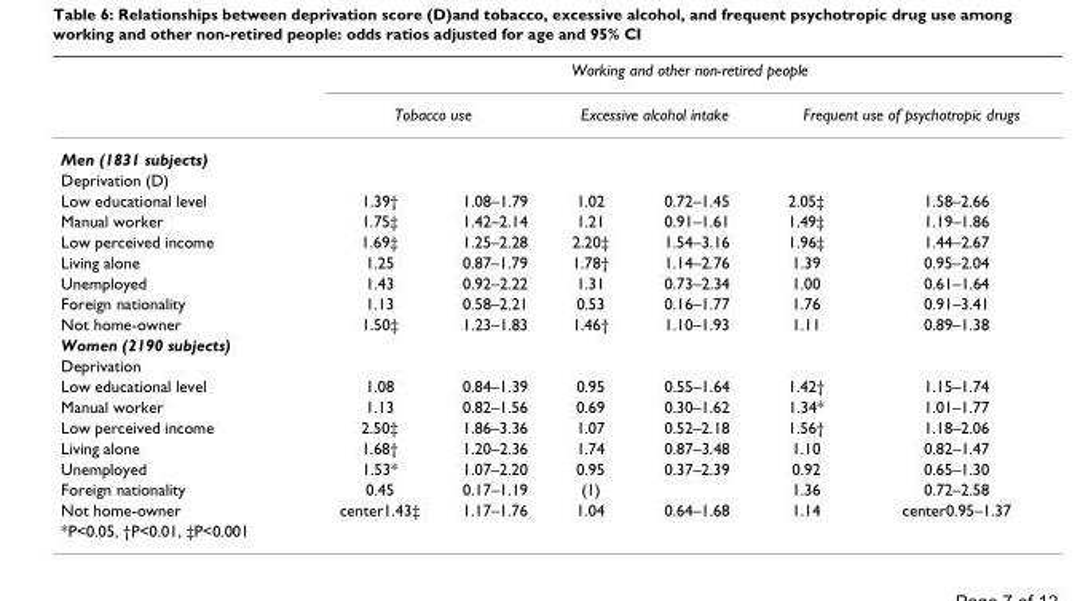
<table><thead><tr><td rowspan="3">Men (1831 subjects)</td><td colspan="6">Working and other non-retired people</td></tr><tr><td colspan="2">Tobacco use</td><td colspan="2">Excessive alcohol intake</td><td colspan="2">Frequent use of psychotropic drugs</td></tr><tr><td></td><td></td><td></td><td></td><td></td><td></td></tr></thead><tbody><tr><td colspan="7">Deprivation (D)</td></tr><tr><td>Low educational level</td><td>1.39†</td><td>1.08–1.79</td><td>1.02</td><td>0.72–1.45</td><td>2.05‡</td><td>1.58–2.66</td></tr><tr><td>Manual worker</td><td>1.75‡</td><td>1.42–2.14</td><td>1.21</td><td>0.91–1.61</td><td>1.49‡</td><td>1.19–1.86</td></tr><tr><td>Low perceived income</td><td>1.69‡</td><td>1.25–2.28</td><td>2.20‡</td><td>1.54–3.16</td><td>1.96‡</td><td>1.44–2.67</td></tr><tr><td>Living alone</td><td>1.25</td><td>0.87–1.79</td><td>1.78†</td><td>1.14–2.76</td><td>1.39</td><td>0.95–2.04</td></tr><tr><td>Unemployed</td><td>1.43</td><td>0.92–2.22</td><td>1.31</td><td>0.73–2.34</td><td>1.00</td><td>0.61–1.64</td></tr><tr><td>Foreign nationality</td><td>1.13</td><td>0.58–2.21</td><td>0.53</td><td>0.16–1.77</td><td>1.76</td><td>0.91–3.41</td></tr><tr><td>Not home-owner</td><td>1.50‡</td><td>1.23–1.83</td><td>1.46†</td><td>1.10–1.93</td><td>1.11</td><td>0.89–1.38</td></tr><tr><td colspan="7">Women (2190 subjects)</td></tr><tr><td colspan="7">Deprivation</td></tr><tr><td>Low educational level</td><td>1.08</td><td>0.84–1.39</td><td>0.95</td><td>0.55–1.64</td><td>1.42†</td><td>1.15–1.74</td></tr><tr><td>Manual worker</td><td>1.13</td><td>0.82–1.56</td><td>0.69</td><td>0.30–1.62</td><td>1.34*</td><td>1.01–1.77</td></tr><tr><td>Low perceived income</td><td>2.50‡</td><td>1.86–3.36</td><td>1.07</td><td>0.52–2.18</td><td>1.56†</td><td>1.18–2.06</td></tr><tr><td>Living alone</td><td>1.68†</td><td>1.20–2.36</td><td>1.74</td><td>0.87–3.48</td><td>1.10</td><td>0.82–1.47</td></tr><tr><td>Unemployed</td><td>1.53*</td><td>1.07–2.20</td><td>0.95</td><td>0.37–2.39</td><td>0.92</td><td>0.65–1.30</td></tr><tr><td>Foreign nationality</td><td>0.45</td><td>0.17–1.19</td><td>(1)</td><td></td><td>1.36</td><td>0.72–2.58</td></tr><tr><td>Not home-owner</td><td>center1.43‡</td><td>1.17–1.76</td><td>1.04</td><td>0.64–1.68</td><td>1.14</td><td>center0.95–1.37</td></tr><tr><td>*P&lt;0.05, †P&lt;0.01, ‡P&lt;0.001</td><td></td><td></td><td></td><td></td><td></td><td></td></tr></tbody></table>